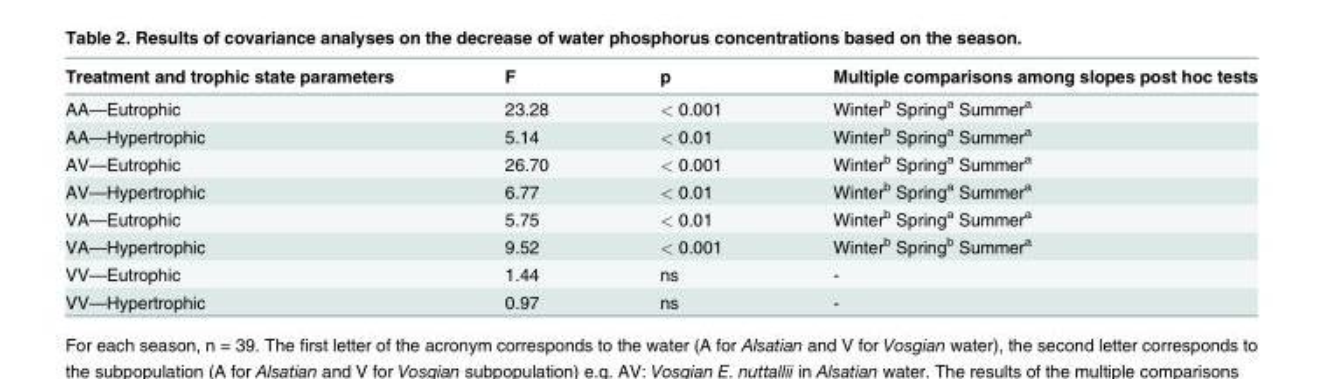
<table><thead><tr><td>Treatment and trophic state parameters</td><td>F</td><td>p</td><td>Multiple comparisons among slopes post hoc tests</td></tr></thead><tbody><tr><td>AA—Eutrophic</td><td>23.28</td><td>&lt; 0.001</td><td>Winter<sup>b</sup> Spring<sup>a</sup> Summer<sup>a</sup></td></tr><tr><td>AA—Hypertrophic</td><td>5.14</td><td>&lt; 0.01</td><td>Winter<sup>b</sup> Spring<sup>a</sup> Summer<sup>a</sup></td></tr><tr><td>AV—Eutrophic</td><td>26.70</td><td>&lt; 0.001</td><td>Winter<sup>b</sup> Spring<sup>a</sup> Summer<sup>a</sup></td></tr><tr><td>AV—Hypertrophic</td><td>6.77</td><td>&lt; 0.01</td><td>Winter<sup>b</sup> Spring<sup>a</sup> Summer<sup>a</sup></td></tr><tr><td>VA—Eutrophic</td><td>5.75</td><td>&lt; 0.01</td><td>Winter<sup>b</sup> Spring<sup>a</sup> Summer<sup>a</sup></td></tr><tr><td>VA—Hypertrophic</td><td>9.52</td><td>&lt; 0.001</td><td>Winter<sup>b</sup> Spring<sup>b</sup> Summer<sup>a</sup></td></tr><tr><td>VV—Eutrophic</td><td>1.44</td><td>ns</td><td>-</td></tr><tr><td>VV—Hypertrophic</td><td>0.97</td><td>ns</td><td>-</td></tr></tbody></table>